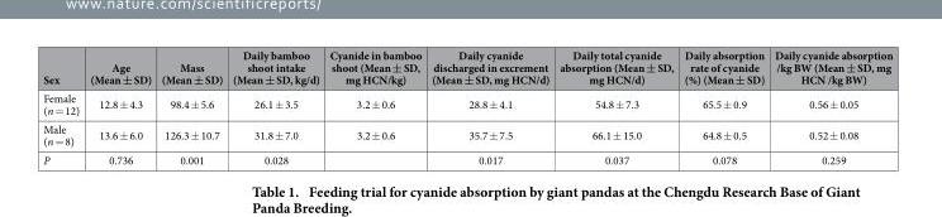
<table><thead><tr><td>Sex</td><td>Age (Mean ± SD)</td><td>Mass (Mean ± SD)</td><td>Daily bamboo shoot intake (Mean ± SD, kg/d)</td><td>Cyanide in bamboo shoot (Mean ± SD, mg HCN/kg)</td><td>Daily cyanide discharged in excrement (Mean ± SD, mg HCN/d)</td><td>Daily total cyanide absorption (Mean ± SD, mg HCN/d)</td><td>Daily absorption rate of cyanide (%) (Mean ± SD)</td><td>Daily cyanide absorption /kg BW (Mean ± SD, mg HCN /kg BW)</td></tr></thead><tbody><tr><td>Female (n = 12)</td><td>12.8 ± 4.3</td><td>98.4 ± 5.6</td><td>26.1 ± 3.5</td><td>3.2 ± 0.6</td><td>28.8 ± 4.1</td><td>54.8 ± 7.3</td><td>65.5 ± 0.9</td><td>0.56 ± 0.05</td></tr><tr><td>Male (n = 8)</td><td>13.6 ± 6.0</td><td>126.3 ± 10.7</td><td>31.8 ± 7.0</td><td>3.2 ± 0.6</td><td>35.7 ± 7.5</td><td>66.1 ± 15.0</td><td>64.8 ± 0.5</td><td>0.52 ± 0.08</td></tr><tr><td>P</td><td>0.736</td><td>0.001</td><td>0.028</td><td></td><td>0.017</td><td>0.037</td><td>0.078</td><td>0.259</td></tr></tbody></table>